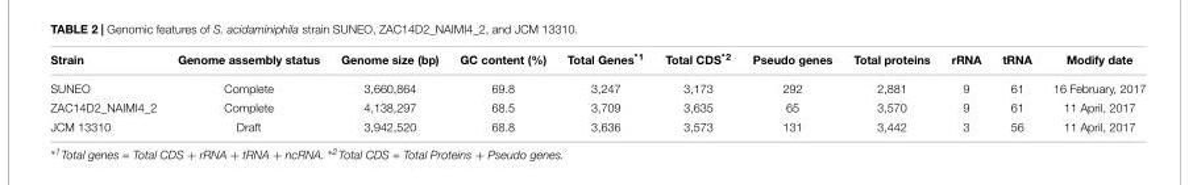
<table><thead><tr><td>Strain</td><td>Genome assembly status</td><td>Genome size (bp)</td><td>GC content (%)</td><td>Total Genes <sup>∗1</sup></td><td>Total CDS <sup>∗2</sup></td><td>Pseudo genes</td><td>Total proteins</td><td>rRNA</td><td>tRNA</td><td>Modify date</td></tr></thead><tbody><tr><td>SUNEO</td><td>Complete</td><td>3,660,864</td><td>69.8</td><td>3,247</td><td>3,173</td><td>292</td><td>2,881</td><td>9</td><td>61</td><td>16 February, 2017</td></tr><tr><td>ZAC14D2_NAIMI4_2</td><td>Complete</td><td>4,138,297</td><td>68.5</td><td>3,709</td><td>3,635</td><td>65</td><td>3,570</td><td>9</td><td>61</td><td>11 April, 2017</td></tr><tr><td>JCM 13310</td><td>Draft</td><td>3,942,520</td><td>68.8</td><td>3,636</td><td>3,573</td><td>131</td><td>3,442</td><td>3</td><td>56</td><td>11 April, 2017</td></tr></tbody></table>